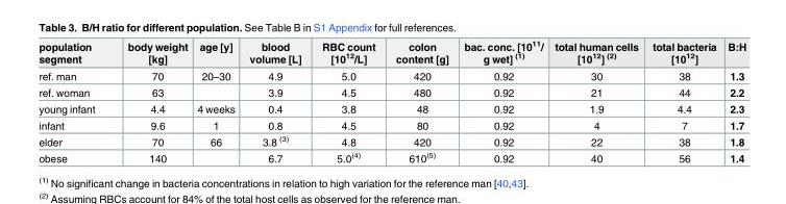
<table><thead><tr><td>population segment</td><td>body weight [kg]</td><td>age [y]</td><td>blood volume [L]</td><td>RBC count [10<sup>12</sup>/L]</td><td>colon content [g]</td><td>bac. conc. [10<sup>11</sup>/ g wet] <sup>(1)</sup></td><td>total human cells [10<sup>12</sup>] <sup>(2)</sup></td><td>total bacteria [10<sup>12</sup>]</td><td>B:H</td></tr></thead><tbody><tr><td>ref. man</td><td>70</td><td>20–30</td><td>4.9</td><td>5.0</td><td>420</td><td>0.92</td><td>30</td><td>38</td><td>1.3</td></tr><tr><td>ref. woman</td><td>63</td><td></td><td>3.9</td><td>4.5</td><td>480</td><td>0.92</td><td>21</td><td>44</td><td>2.2</td></tr><tr><td>young infant</td><td>4.4</td><td>4 weeks</td><td>0.4</td><td>3.8</td><td>48</td><td>0.92</td><td>1.9</td><td>4.4</td><td>2.3</td></tr><tr><td>infant</td><td>9.6</td><td>1</td><td>0.8</td><td>4.5</td><td>80</td><td>0.92</td><td>4</td><td>7</td><td>1.7</td></tr><tr><td>elder</td><td>70</td><td>66</td><td>3.8 <sup>(3)</sup></td><td>4.8</td><td>420</td><td>0.92</td><td>22</td><td>38</td><td>1.8</td></tr><tr><td>obese</td><td>140</td><td></td><td>6.7</td><td>5.0<sup>(4)</sup></td><td>610<sup>(5)</sup></td><td>0.92</td><td>40</td><td>56</td><td>1.4</td></tr></tbody></table>